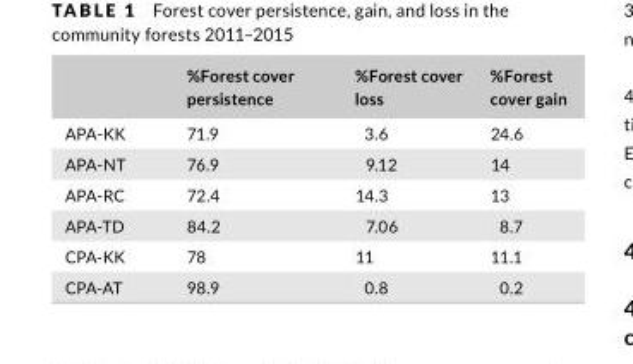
<table><thead><tr><td></td><td>%Forest cover persistence</td><td>%Forest cover loss</td><td>%Forest cover gain</td></tr></thead><tbody><tr><td>APA- KK</td><td>71.9</td><td>3.6</td><td>24.6</td></tr><tr><td>APA- NT</td><td>76.9</td><td>9.12</td><td>14</td></tr><tr><td>APA- RC</td><td>72.4</td><td>14.3</td><td>13</td></tr><tr><td>APA- TD</td><td>84.2</td><td>7.06</td><td>8.7</td></tr><tr><td>CPA- KK</td><td>78</td><td>11</td><td>11.1</td></tr><tr><td>CPA- AT</td><td>98.9</td><td>0.8</td><td>0.2</td></tr></tbody></table>